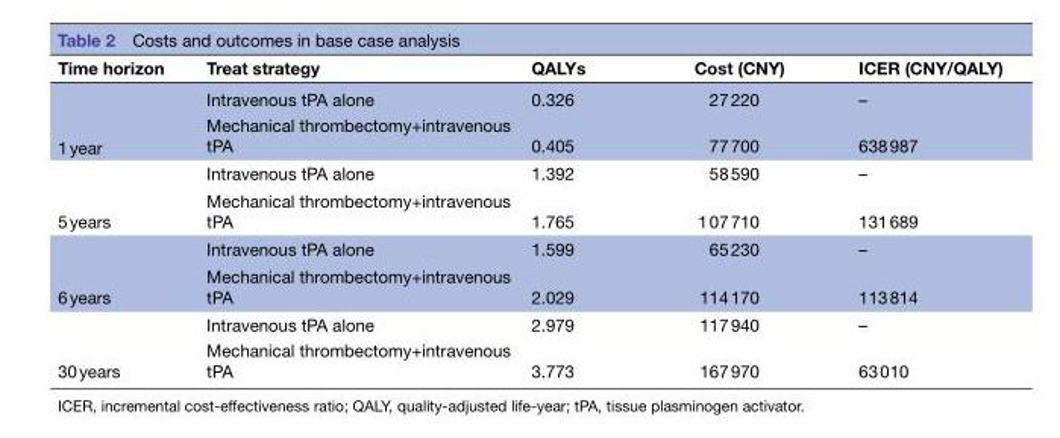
<table><thead><tr><td>Time horizon</td><td>Treat strategy</td><td>QALYs</td><td>Cost (CNY)</td><td>ICER (CNY/QALY)</td></tr></thead><tbody><tr><td rowspan="2">1 year</td><td>Intravenous tPA alone</td><td>0.326</td><td>27 220</td><td>–</td></tr><tr><td>Mechanical thrombectomy+intravenous tPA</td><td>0.405</td><td>77 700</td><td>638 987</td></tr><tr><td rowspan="2">5 years</td><td>Intravenous tPA alone</td><td>1.392</td><td>58 590</td><td>–</td></tr><tr><td>Mechanical thrombectomy+intravenous tPA</td><td>1.765</td><td>1 07 710</td><td>131 689</td></tr><tr><td rowspan="2">6 years</td><td>Intravenous tPA alone</td><td>1.599</td><td>65 230</td><td>–</td></tr><tr><td>Mechanical thrombectomy+intravenous tPA</td><td>2.029</td><td>114 170</td><td>113 814</td></tr><tr><td rowspan="2">30 years</td><td>Intravenous tPA alone</td><td>2.979</td><td>117 940</td><td>–</td></tr><tr><td>Mechanical thrombectomy+intravenous tPA</td><td>3.773</td><td>167 970</td><td>63 010</td></tr></tbody></table>